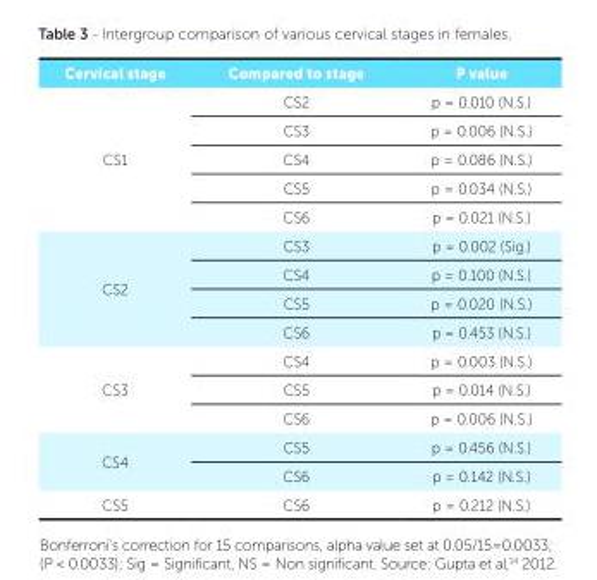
<table><thead><tr><td>Cervical stage</td><td>Compared to stage</td><td>P value</td></tr></thead><tbody><tr><td rowspan="5">CS1</td><td>CS2</td><td>p = 0.010 (N.S.)</td></tr><tr><td>CS3</td><td>p = 0.006 (N.S.)</td></tr><tr><td>CS4</td><td>p = 0.086 (N.S.)</td></tr><tr><td>CS5</td><td>p = 0.034 (N.S.)</td></tr><tr><td>CS6</td><td>p = 0.021 (N.S.)</td></tr><tr><td rowspan="4">CS2</td><td>CS3</td><td>p = 0.002 (Sig.)</td></tr><tr><td>CS4</td><td>p = 0.100 (N.S.)</td></tr><tr><td>CS5</td><td>p = 0.020 (N.S.)</td></tr><tr><td>CS6</td><td>p = 0.453 (N.S.)</td></tr><tr><td rowspan="3">CS3</td><td>CS4</td><td>p = 0.003 (N.S.)</td></tr><tr><td>CS5</td><td>p = 0.014 (N.S.)</td></tr><tr><td>CS6</td><td>p = 0.006 (N.S.)</td></tr><tr><td rowspan="2">CS4</td><td>CS5</td><td>p = 0.456 (N.S.)</td></tr><tr><td>CS6</td><td>p = 0.142 (N.S.)</td></tr><tr><td>CS5</td><td>CS6</td><td>p = 0.212 (N.S.)</td></tr></tbody></table>